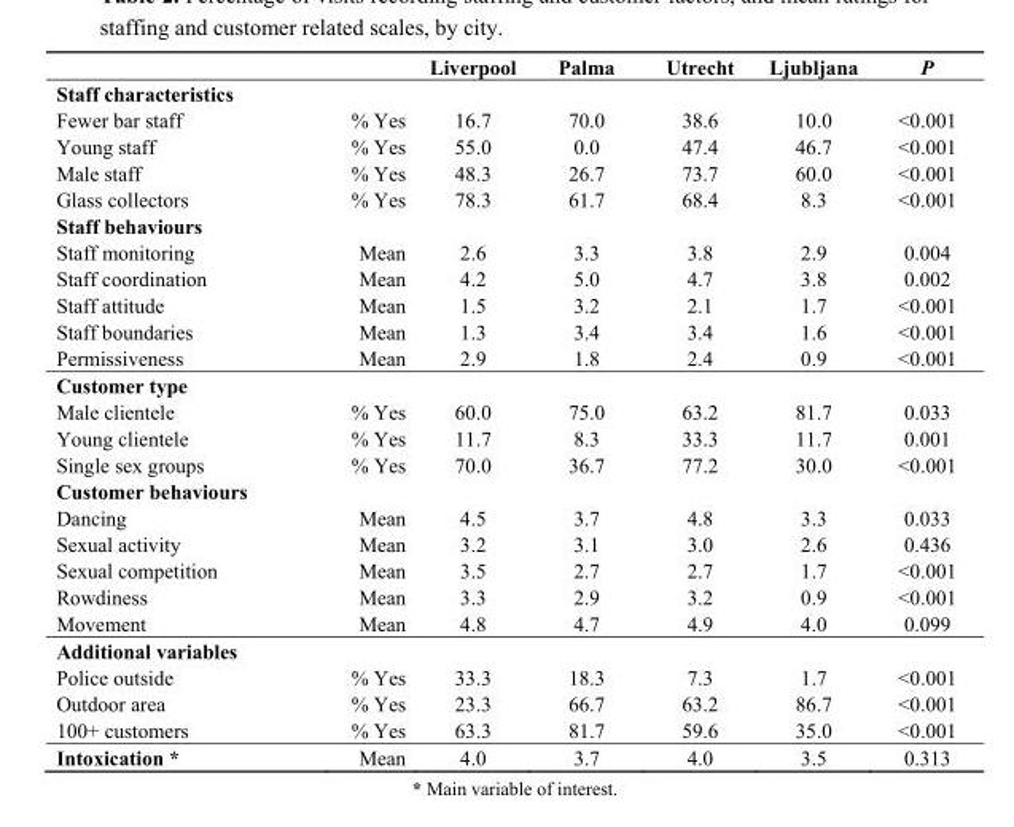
<table><thead><tr><td></td><td></td><td>Liverpool</td><td>Palma</td><td>Utrecht</td><td>Ljubljana</td><td>P</td></tr></thead><tbody><tr><td colspan="7">Staff characteristics</td></tr><tr><td>Fewer bar staff</td><td>% Yes</td><td>16.7</td><td>70.0</td><td>38.6</td><td>10.0</td><td>&lt;0.001</td></tr><tr><td>Young staff</td><td>% Yes</td><td>55.0</td><td>0.0</td><td>47.4</td><td>46.7</td><td>&lt;0.001</td></tr><tr><td>Male staff</td><td>% Yes</td><td>48.3</td><td>26.7</td><td>73.7</td><td>60.0</td><td>&lt;0.001</td></tr><tr><td>Glass collectors</td><td>% Yes</td><td>78.3</td><td>61.7</td><td>68.4</td><td>8.3</td><td>&lt;0.001</td></tr><tr><td colspan="7">Staff behaviours</td></tr><tr><td>Staff monitoring</td><td>Mean</td><td>2.6</td><td>3.3</td><td>3.8</td><td>2.9</td><td>0.004</td></tr><tr><td>Staff coordination</td><td>Mean</td><td>4.2</td><td>5.0</td><td>4.7</td><td>3.8</td><td>0.002</td></tr><tr><td>Staff attitude</td><td>Mean</td><td>1.5</td><td>3.2</td><td>2.1</td><td>1.7</td><td>&lt;0.001</td></tr><tr><td>Staff boundaries</td><td>Mean</td><td>1.3</td><td>3.4</td><td>3.4</td><td>1.6</td><td>&lt;0.001</td></tr><tr><td>Permissiveness</td><td>Mean</td><td>2.9</td><td>1.8</td><td>2.4</td><td>0.9</td><td>&lt;0.001</td></tr><tr><td colspan="7">Customer type</td></tr><tr><td>Male clientele</td><td>% Yes</td><td>60.0</td><td>75.0</td><td>63.2</td><td>81.7</td><td>0.033</td></tr><tr><td>Young clientele</td><td>% Yes</td><td>11.7</td><td>8.3</td><td>33.3</td><td>11.7</td><td>0.001</td></tr><tr><td>Single sex groups</td><td>% Yes</td><td>70.0</td><td>36.7</td><td>77.2</td><td>30.0</td><td>&lt;0.001</td></tr><tr><td colspan="7">Customer behaviours</td></tr><tr><td>Dancing</td><td>Mean</td><td>4.5</td><td>3.7</td><td>4.8</td><td>3.3</td><td>0.033</td></tr><tr><td>Sexual activity</td><td>Mean</td><td>3.2</td><td>3.1</td><td>3.0</td><td>2.6</td><td>0.436</td></tr><tr><td>Sexual competition</td><td>Mean</td><td>3.5</td><td>2.7</td><td>2.7</td><td>1.7</td><td>&lt;0.001</td></tr><tr><td>Rowdiness</td><td>Mean</td><td>3.3</td><td>2.9</td><td>3.2</td><td>0.9</td><td>&lt;0.001</td></tr><tr><td>Movement</td><td>Mean</td><td>4.8</td><td>4.7</td><td>4.9</td><td>4.0</td><td>0.099</td></tr><tr><td colspan="7">Additional variables</td></tr><tr><td>Police outside</td><td>% Yes</td><td>33.3</td><td>18.3</td><td>7.3</td><td>1.7</td><td>&lt;0.001</td></tr><tr><td>Outdoor area</td><td>% Yes</td><td>23.3</td><td>66.7</td><td>63.2</td><td>86.7</td><td>&lt;0.001</td></tr><tr><td>100+ customers</td><td>% Yes</td><td>63.3</td><td>81.7</td><td>59.6</td><td>35.0</td><td>&lt;0.001</td></tr><tr><td>Intoxication *</td><td>Mean</td><td>4.0</td><td>3.7</td><td>4.0</td><td>3.5</td><td>0.313</td></tr></tbody></table>